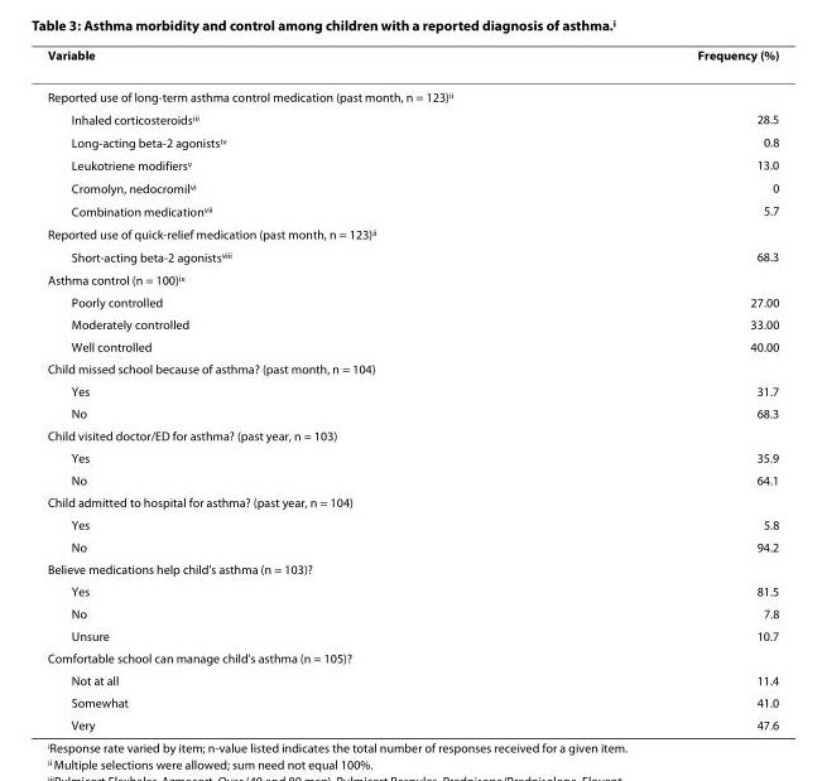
<table><thead><tr><td>Variable</td><td>Frequency (%)</td></tr></thead><tbody><tr><td colspan="2">Reported use of long-term asthma control medication (past month, n = 123)<sup>ii</sup></td></tr><tr><td>Inhaled corticosteroids<sup>iii</sup></td><td>28.5</td></tr><tr><td>Long-acting beta-2 agonists<sup>iv</sup></td><td>0.8</td></tr><tr><td>Leukotriene modifiers<sup>v</sup></td><td>13.0</td></tr><tr><td>Cromolyn, nedocromil<sup>vi</sup></td><td>0</td></tr><tr><td>Combination medication<sup>vii</sup></td><td>5.7</td></tr><tr><td colspan="2">Reported use of quick-relief medication (past month, n = 123)<sup>ii</sup></td></tr><tr><td>Short-acting beta-2 agonists<sup>viii</sup></td><td>68.3</td></tr><tr><td colspan="2">Asthma control (n = 100)<sup>ix</sup></td></tr><tr><td>Poorly controlled</td><td>27.00</td></tr><tr><td>Moderately controlled</td><td>33.00</td></tr><tr><td>Well controlled</td><td>40.00</td></tr><tr><td colspan="2">Child missed school because of asthma? (past month, n = 104)</td></tr><tr><td>Yes</td><td>31.7</td></tr><tr><td>No</td><td>68.3</td></tr><tr><td colspan="2">Child visited doctor/ED for asthma? (past year, n = 103)</td></tr><tr><td>Yes</td><td>35.9</td></tr><tr><td>No</td><td>64.1</td></tr><tr><td colspan="2">Child admitted to hospital for asthma? (past year, n = 104)</td></tr><tr><td>Yes</td><td>5.8</td></tr><tr><td>No</td><td>94.2</td></tr><tr><td colspan="2">Believe medications help child&#x27;s asthma (n = 103)?</td></tr><tr><td>Yes</td><td>81.5</td></tr><tr><td>No</td><td>7.8</td></tr><tr><td>Unsure</td><td>10.7</td></tr><tr><td colspan="2">Comfortable school can manage child&#x27;s asthma (n = 105)?</td></tr><tr><td>Not at all</td><td>11.4</td></tr><tr><td>Somewhat</td><td>41.0</td></tr><tr><td>Very</td><td>47.6</td></tr></tbody></table>